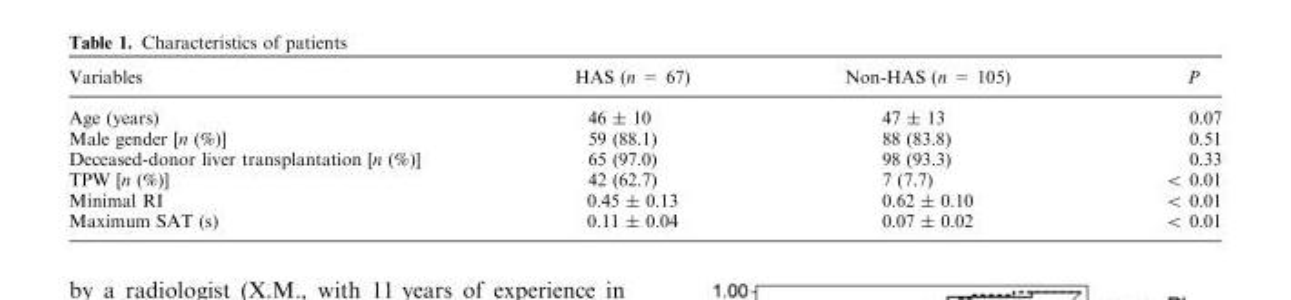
<table><thead><tr><td>Variables</td><td>HAS (n = 67)</td><td>Non-HAS (n = 105)</td><td>P</td></tr></thead><tbody><tr><td>Age (years)</td><td>46 ± 10</td><td>47 ± 13</td><td>0.07</td></tr><tr><td>Male gender [n (%)]</td><td>59 (88.1)</td><td>88 (83.8)</td><td>0.51</td></tr><tr><td>Deceased-donor liver transplantation [n (%)]</td><td>65 (97.0)</td><td>98 (93.3)</td><td>0.33</td></tr><tr><td>TPW [n (%)]</td><td>42 (62.7)</td><td>7 (7.7)</td><td>&lt; 0.01</td></tr><tr><td>Minimal RI</td><td>0.45 ± 0.13</td><td>0.62 ± 0.10</td><td>&lt; 0.01</td></tr><tr><td>Maximum SAT (s)</td><td>0.11 ± 0.04</td><td>0.07 ± 0.02</td><td>&lt; 0.01</td></tr></tbody></table>